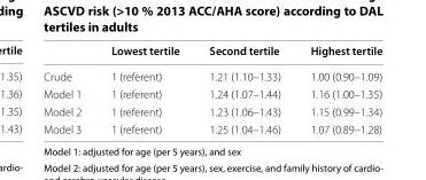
<table><thead><tr><td></td><td>Lowest tertile</td><td>Second tertile</td><td>Highest tertile</td></tr></thead><tbody><tr><td>Crude</td><td>1 (referent)</td><td>1.21 (1.10–1.33)</td><td>1.00 (0.90–1.09)</td></tr><tr><td>Model 1</td><td>1 (referent)</td><td>1.24 (1.07–1.44)</td><td>1.16 (1.00–1.35)</td></tr><tr><td>Model 2</td><td>1 (referent)</td><td>1.23 (1.06–1.43)</td><td>1.15 (0.99–1.34)</td></tr><tr><td>Model 3</td><td>1 (referent)</td><td>1.25 (1.04–1.46)</td><td>1.07 (0.89–1.28)</td></tr></tbody></table>